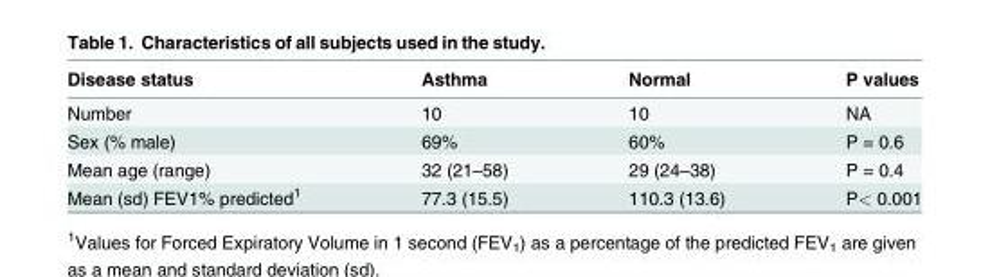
<table><thead><tr><td>Disease status</td><td>Asthma</td><td>Normal</td><td>P values</td></tr></thead><tbody><tr><td>Number</td><td>10</td><td>10</td><td>NA</td></tr><tr><td>Sex (% male)</td><td>69%</td><td>60%</td><td>P = 0.6</td></tr><tr><td>Mean age (range)</td><td>32 (21–58)</td><td>29 (24–38)</td><td>P = 0.4</td></tr><tr><td>Mean (sd) FEV1% predicted<sup>1</sup></td><td>77.3 (15.5)</td><td>110.3 (13.6)</td><td>P&lt; 0.001</td></tr></tbody></table>